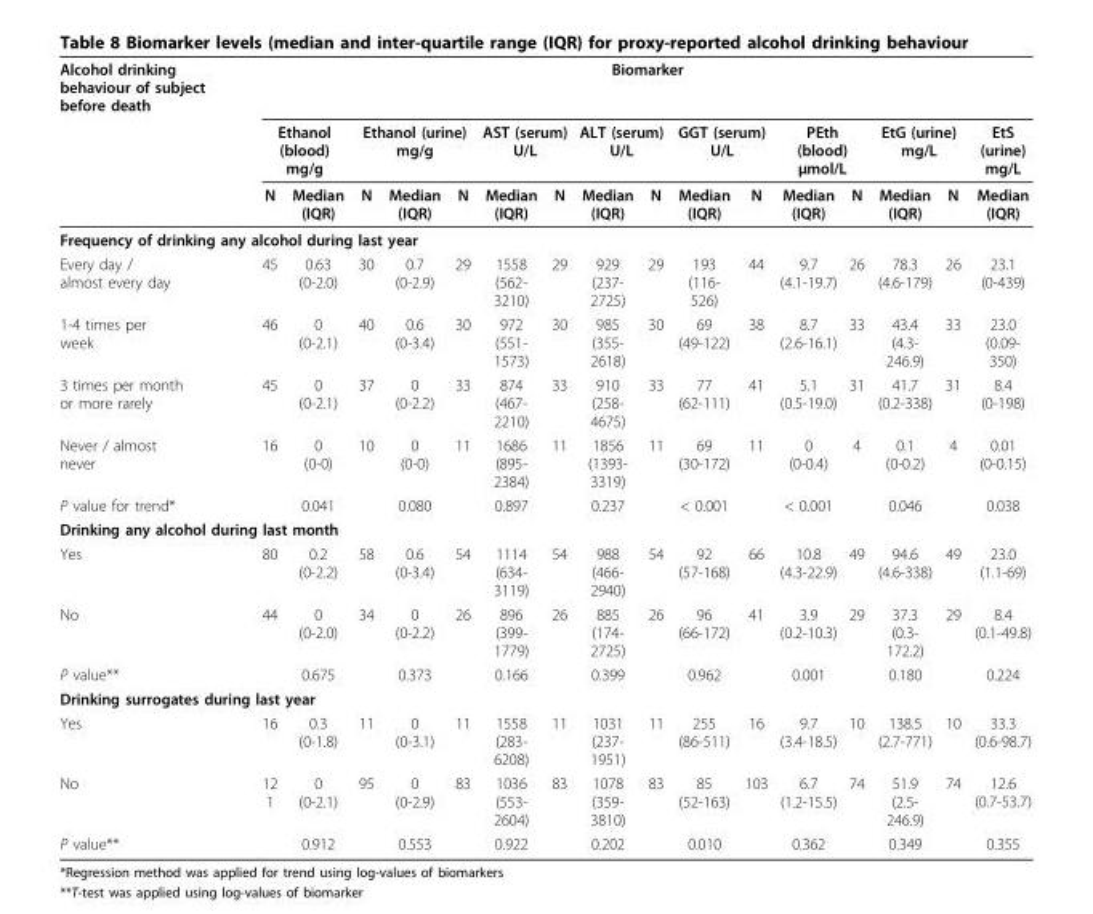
<table><thead><tr><td rowspan="3">Alcohol drinking behaviour of subject before death</td><td colspan="16">Biomarker</td></tr><tr><td colspan="2">Ethanol (blood) mg/g</td><td colspan="3">Ethanol (urine) mg/g</td><td colspan="2">AST (serum) U/L</td><td colspan="2">ALT (serum) U/L</td><td colspan="2">GGT (serum) U/L</td><td colspan="2">PEth (blood) μmol/L</td><td colspan="2">EtG (urine) mg/L</td><td rowspan="2">EtS (urine) mg/L Median (IQR)</td></tr><tr><td>N</td><td>Median (IQR)</td><td>N</td><td>Median (IQR)</td><td>N</td><td>Median (IQR)</td><td>N</td><td>Median (IQR)</td><td>N</td><td>Median (IQR)</td><td>N</td><td>Median (IQR)</td><td>N</td><td>Median (IQR)</td><td>N</td></tr></thead><tbody><tr><td colspan="17">Frequency of drinking any alcohol during last year</td></tr><tr><td>Every day / almost every day</td><td>45</td><td>0.63 (0-2.0)</td><td>30</td><td>0.7 (0-2.9)</td><td>29</td><td>1558 (562- 3210)</td><td>29</td><td>929 (237- 2725)</td><td>29</td><td>193 (116- 526)</td><td>44</td><td>9.7 (4.1-19.7)</td><td>26</td><td>78.3 (4.6-179)</td><td>26</td><td>23.1 (0-439)</td></tr><tr><td>1-4 times per week</td><td>46</td><td>0 (0-2.1)</td><td>40</td><td>0.6 (0-3.4)</td><td>30</td><td>972 (551- 1573)</td><td>30</td><td>985 (355- 2618)</td><td>30</td><td>69 (49-122)</td><td>38</td><td>8.7 (2.6-16.1)</td><td>33</td><td>43.4 (4.3- 246.9)</td><td>33</td><td>23.0 (0.09- 350)</td></tr><tr><td>3 times per month or more rarely</td><td>45</td><td>0 (0-2.1)</td><td>37</td><td>0 (0-2.2)</td><td>33</td><td>874 (467- 2210)</td><td>33</td><td>910 (258- 4675)</td><td>33</td><td>77 (62-111)</td><td>41</td><td>5.1 (0.5-19.0)</td><td>31</td><td>41.7 (0.2-338)</td><td>31</td><td>8.4 (0-198)</td></tr><tr><td>Never / almost never</td><td>16</td><td>0 (0-0)</td><td>10</td><td>0 (0-0)</td><td>11</td><td>1686 (895- 2384)</td><td>11</td><td>1856 (1393- 3319)</td><td>11</td><td>69 (30-172)</td><td>11</td><td>0 (0-0.4)</td><td>4</td><td>0.1 (0-0.2)</td><td>4</td><td>0.01 (0-0.15)</td></tr><tr><td>P value for trend*</td><td></td><td>0.041</td><td></td><td>0.080</td><td></td><td>0.897</td><td></td><td>0.237</td><td></td><td>&lt; 0.001</td><td></td><td>&lt; 0.001</td><td></td><td>0.046</td><td></td><td>0.038</td></tr><tr><td colspan="17">Drinking any alcohol during last month</td></tr><tr><td>Yes</td><td>80</td><td>0.2 (0-2.2)</td><td>58</td><td>0.6 (0-3.4)</td><td>54</td><td>1114 (634- 3119)</td><td>54</td><td>988 (466- 2940)</td><td>54</td><td>92 (57-168)</td><td>66</td><td>10.8 (4.3-22.9)</td><td>49</td><td>94.6 (4.6-338)</td><td>49</td><td>23.0 (1.1-69)</td></tr><tr><td>No</td><td>44</td><td>0 (0-2.0)</td><td>34</td><td>0 (0-2.2)</td><td>26</td><td>896 (399- 1779)</td><td>26</td><td>885 (174- 2725)</td><td>26</td><td>96 (66-172)</td><td>41</td><td>3.9 (0.2-10.3)</td><td>29</td><td>37.3 (0.3- 172.2)</td><td>29</td><td>8.4 (0.1-49.8)</td></tr><tr><td>P value**</td><td></td><td>0.675</td><td></td><td>0.373</td><td></td><td>0.166</td><td></td><td>0.399</td><td></td><td>0.962</td><td></td><td>0.001</td><td></td><td>0.180</td><td></td><td>0.224</td></tr><tr><td colspan="17">Drinking surrogates during last year</td></tr><tr><td>Yes</td><td>16</td><td>0.3 (0-1.8)</td><td>11</td><td>0 (0-3.1)</td><td>11</td><td>1558 (283- 6208)</td><td>11</td><td>1031 (237- 1951)</td><td>11</td><td>255 (86-511)</td><td>16</td><td>9.7 (3.4-18.5)</td><td>10</td><td>138.5 (2.7-771)</td><td>10</td><td>33.3 (0.6-98.7)</td></tr><tr><td>No</td><td>12 1</td><td>0 (0-2.1)</td><td>95</td><td>0 (0-2.9)</td><td>83</td><td>1036 (553- 2604)</td><td>83</td><td>1078 (359- 3810)</td><td>83</td><td>85 (52-163)</td><td>103</td><td>6.7 (1.2-15.5)</td><td>74</td><td>51.9 (2.5- 246.9)</td><td>74</td><td>12.6 (0.7-53.7)</td></tr><tr><td>P value**</td><td></td><td>0.912</td><td></td><td>0.553</td><td></td><td>0.922</td><td></td><td>0.202</td><td></td><td>0.010</td><td></td><td>0.362</td><td></td><td>0.349</td><td></td><td>0.355</td></tr></tbody></table>